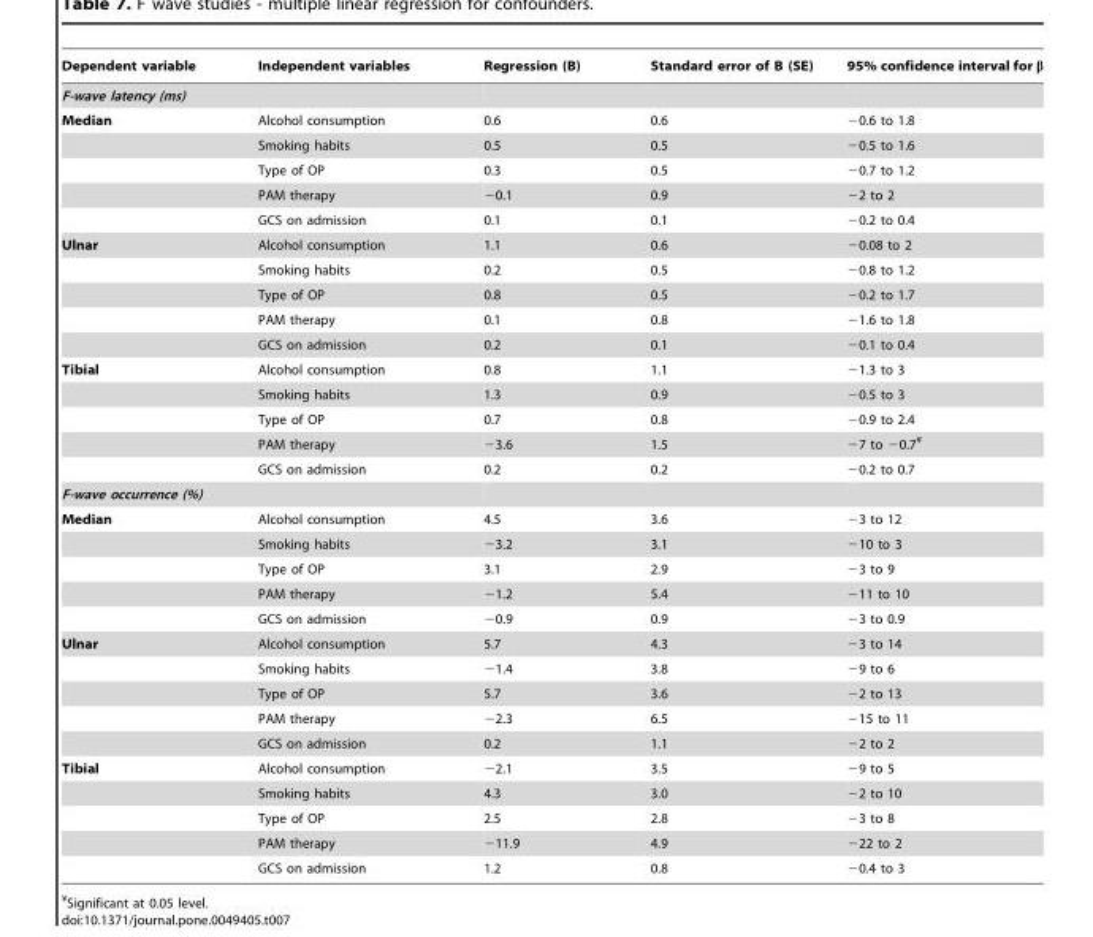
<table><thead><tr><td>Dependent variable</td><td>Independent variables</td><td>Regression (B)</td><td>Standard error of B (SE)</td><td>95% confidence interval for</td></tr></thead><tbody><tr><td colspan="5">F-wave latency (ms)</td></tr><tr><td rowspan="5">Median</td><td>Alcohol consumption</td><td>0.6</td><td>0.6</td><td>−0.6 to 1.8</td></tr><tr><td>Smoking habits</td><td>0.5</td><td>0.5</td><td>−0.5 to 1.6</td></tr><tr><td>Type of OP</td><td>0.3</td><td>0.5</td><td>−0.7 to 1.2</td></tr><tr><td>PAM therapy</td><td>−0.1</td><td>0.9</td><td>−2 to 2</td></tr><tr><td>GCS on admission</td><td>0.1</td><td>0.1</td><td>−0.2 to 0.4</td></tr><tr><td rowspan="5">Ulnar</td><td>Alcohol consumption</td><td>1.1</td><td>0.6</td><td>−0.08 to 2</td></tr><tr><td>Smoking habits</td><td>0.2</td><td>0.5</td><td>−0.8 to 1.2</td></tr><tr><td>Type of OP</td><td>0.8</td><td>0.5</td><td>−0.2 to 1.7</td></tr><tr><td>PAM therapy</td><td>0.1</td><td>0.8</td><td>−1.6 to 1.8</td></tr><tr><td>GCS on admission</td><td>0.2</td><td>0.1</td><td>−0.1 to 0.4</td></tr><tr><td rowspan="5">Tibial</td><td>Alcohol consumption</td><td>0.8</td><td>1.1</td><td>−1.3 to 3</td></tr><tr><td>Smoking habits</td><td>1.3</td><td>0.9</td><td>−0.5 to 3</td></tr><tr><td>Type of OP</td><td>0.7</td><td>0.8</td><td>−0.9 to 2.4</td></tr><tr><td>PAM therapy</td><td>−3.6</td><td>1.5</td><td>−7 to −0.7¥</td></tr><tr><td>GCS on admission</td><td>0.2</td><td>0.2</td><td>−0.2 to 0.7</td></tr><tr><td colspan="5">F-wave occurrence (%)</td></tr><tr><td rowspan="5">Median</td><td>Alcohol consumption</td><td>4.5</td><td>3.6</td><td>−3 to 12</td></tr><tr><td>Smoking habits</td><td>−3.2</td><td>3.1</td><td>−10 to 3</td></tr><tr><td>Type of OP</td><td>3.1</td><td>2.9</td><td>−3 to 9</td></tr><tr><td>PAM therapy</td><td>−1.2</td><td>5.4</td><td>−11 to 10</td></tr><tr><td>GCS on admission</td><td>−0.9</td><td>0.9</td><td>−3 to 0.9</td></tr><tr><td rowspan="5">Ulnar</td><td>Alcohol consumption</td><td>5.7</td><td>4.3</td><td>−3 to 14</td></tr><tr><td>Smoking habits</td><td>−1.4</td><td>3.8</td><td>−9 to 6</td></tr><tr><td>Type of OP</td><td>5.7</td><td>3.6</td><td>−2 to 13</td></tr><tr><td>PAM therapy</td><td>−2.3</td><td>6.5</td><td>−15 to 11</td></tr><tr><td>GCS on admission</td><td>0.2</td><td>1.1</td><td>−2 to 2</td></tr><tr><td rowspan="5">Tibial</td><td>Alcohol consumption</td><td>−2.1</td><td>3.5</td><td>−9 to 5</td></tr><tr><td>Smoking habits</td><td>4.3</td><td>3.0</td><td>−2 to 10</td></tr><tr><td>Type of OP</td><td>2.5</td><td>2.8</td><td>−3 to 8</td></tr><tr><td>PAM therapy</td><td>−11.9</td><td>4.9</td><td>−22 to 2</td></tr><tr><td>GCS on admission</td><td>1.2</td><td>0.8</td><td>−0.4 to 3</td></tr></tbody></table>